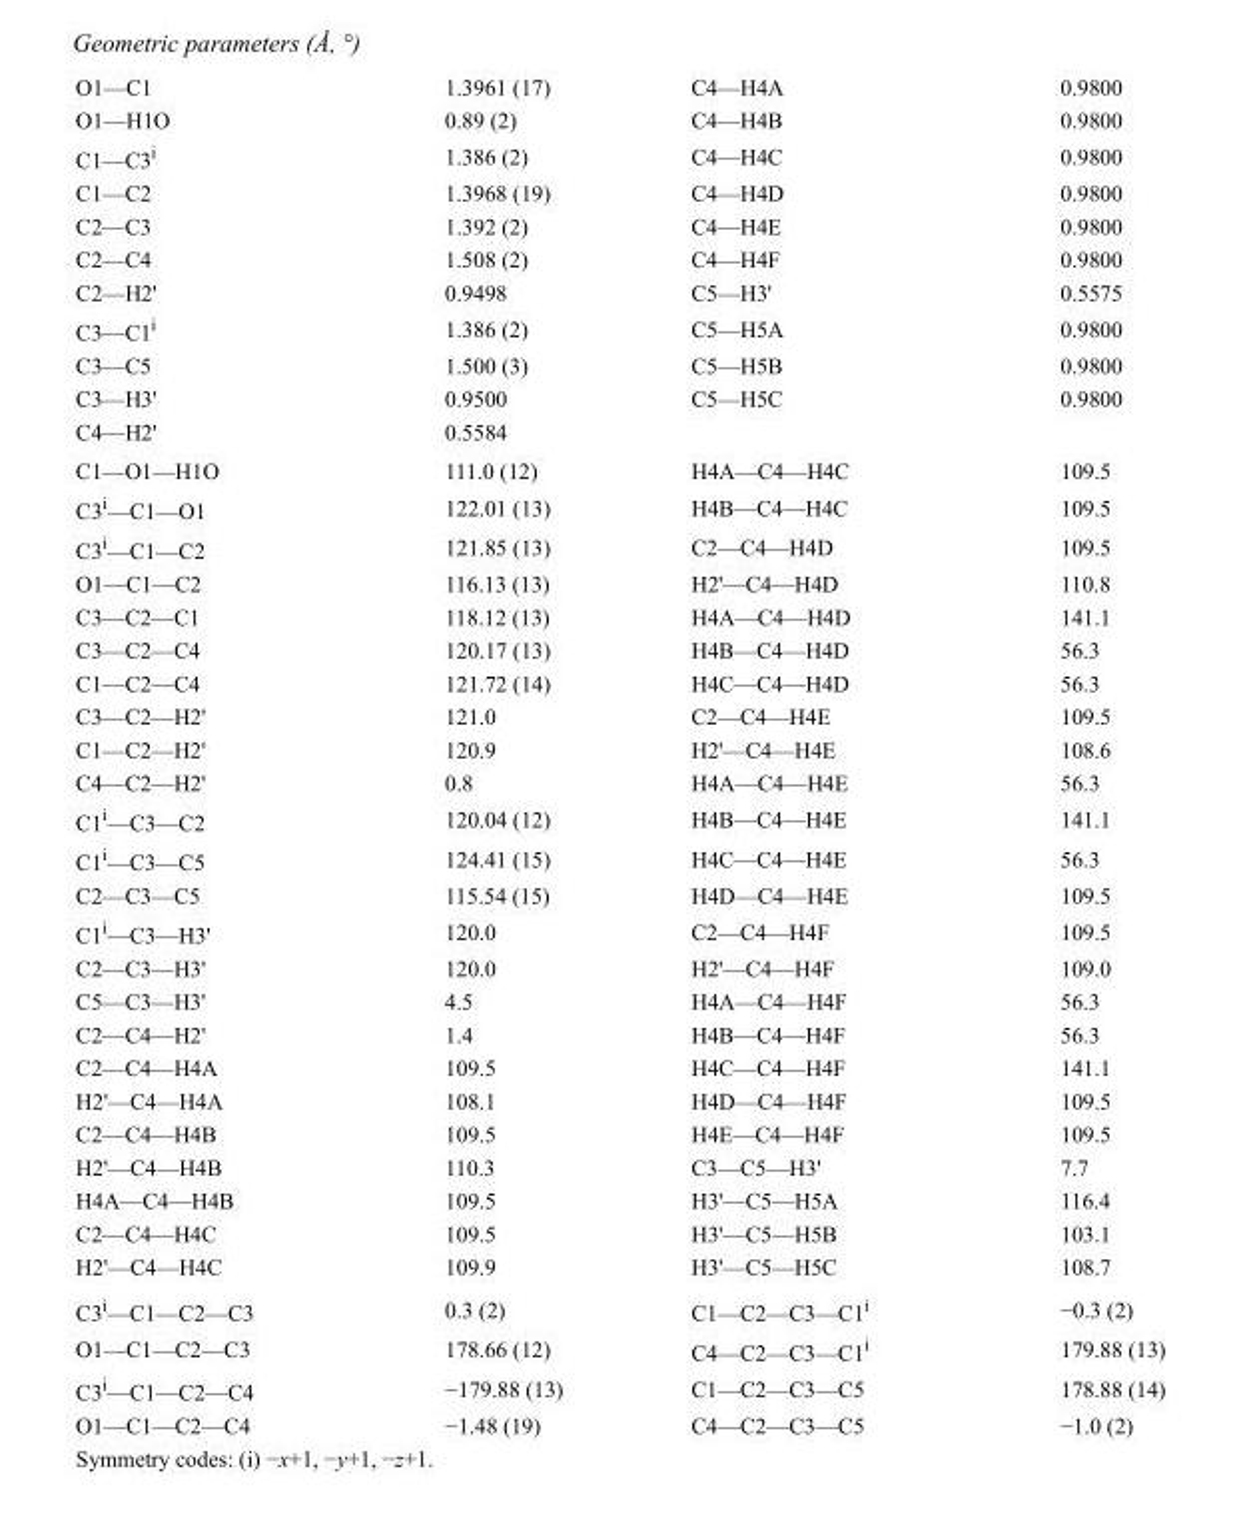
<table><tbody><tr><td>O1—C1</td><td>1.3961 (17)</td><td>C4—H4A</td><td>0.9800</td></tr><tr><td>O1—H1O</td><td>0.89 (2)</td><td>C4—H4B</td><td>0.9800</td></tr><tr><td>C1—C3<sup>i</sup></td><td>1.386 (2)</td><td>C4—H4C</td><td>0.9800</td></tr><tr><td>C1—C2</td><td>1.3968 (19)</td><td>C4—H4D</td><td>0.9800</td></tr><tr><td>C2—C3</td><td>1.392 (2)</td><td>C4—H4E</td><td>0.9800</td></tr><tr><td>C2—C4</td><td>1.508 (2)</td><td>C4—H4F</td><td>0.9800</td></tr><tr><td>C2—H2&#x27;</td><td>0.9498</td><td>C5—H3&#x27;</td><td>0.5575</td></tr><tr><td>C3—C1<sup>i</sup></td><td>1.386 (2)</td><td>C5—H5A</td><td>0.9800</td></tr><tr><td>C3—C5</td><td>1.500 (3)</td><td>C5—H5B</td><td>0.9800</td></tr><tr><td>C3—H3&#x27;</td><td>0.9500</td><td>C5—H5C</td><td>0.9800</td></tr><tr><td>C4—H2&#x27;</td><td>0.5584</td><td></td><td></td></tr><tr><td>C1—O1—H1O</td><td>111.0 (12)</td><td>H4A—C4—H4C</td><td>109.5</td></tr><tr><td>C3<sup>i</sup>—C1—O1</td><td>122.01 (13)</td><td>H4B—C4—H4C</td><td>109.5</td></tr><tr><td>C3<sup>i</sup>—C1—C2</td><td>121.85 (13)</td><td>C2—C4—H4D</td><td>109.5</td></tr><tr><td>O1—C1—C2</td><td>116.13 (13)</td><td>H2&#x27;—C4—H4D</td><td>110.8</td></tr><tr><td>C3—C2—C1</td><td>118.12 (13)</td><td>H4A—C4—H4D</td><td>141.1</td></tr><tr><td>C3—C2—C4</td><td>120.17 (13)</td><td>H4B—C4—H4D</td><td>56.3</td></tr><tr><td>C1—C2—C4</td><td>121.72 (14)</td><td>H4C—C4—H4D</td><td>56.3</td></tr><tr><td>C3—C2—H2&#x27;</td><td>121.0</td><td>C2—C4—H4E</td><td>109.5</td></tr><tr><td>C1—C2—H2&#x27;</td><td>120.9</td><td>H2&#x27;—C4—H4E</td><td>108.6</td></tr><tr><td>C4—C2—H2&#x27;</td><td>0.8</td><td>H4A—C4—H4E</td><td>56.3</td></tr><tr><td>C1<sup>i</sup>—C3—C2</td><td>120.04 (12)</td><td>H4B—C4—H4E</td><td>141.1</td></tr><tr><td>C1<sup>i</sup>—C3—C5</td><td>124.41 (15)</td><td>H4C—C4—H4E</td><td>56.3</td></tr><tr><td>C2—C3—C5</td><td>115.54 (15)</td><td>H4D—C4—H4E</td><td>109.5</td></tr><tr><td>C1<sup>i</sup>—C3—H3&#x27;</td><td>120.0</td><td>C2—C4—H4F</td><td>109.5</td></tr><tr><td>C2—C3—H3&#x27;</td><td>120.0</td><td>H2&#x27;—C4—H4F</td><td>109.0</td></tr><tr><td>C5—C3—H3&#x27;</td><td>4.5</td><td>H4A—C4—H4F</td><td>56.3</td></tr><tr><td>C2—C4—H2&#x27;</td><td>1.4</td><td>H4B—C4—H4F</td><td>56.3</td></tr><tr><td>C2—C4—H4A</td><td>109.5</td><td>H4C—C4—H4F</td><td>141.1</td></tr><tr><td>H2&#x27;—C4—H4A</td><td>108.1</td><td>H4D—C4—H4F</td><td>109.5</td></tr><tr><td>C2—C4—H4B</td><td>109.5</td><td>H4E—C4—H4F</td><td>109.5</td></tr><tr><td>H2&#x27;—C4—H4B</td><td>110.3</td><td>C3—C5—H3&#x27;</td><td>7.7</td></tr><tr><td>H4A—C4—H4B</td><td>109.5</td><td>H3&#x27;—C5—H5A</td><td>116.4</td></tr><tr><td>C2—C4—H4C</td><td>109.5</td><td>H3&#x27;—C5—H5B</td><td>103.1</td></tr><tr><td>H2&#x27;—C4—H4C</td><td>109.9</td><td>H3&#x27;—C5—H5C</td><td>108.7</td></tr><tr><td>C3<sup>i</sup>—C1—C2—C3</td><td>0.3 (2)</td><td>C1—C2—C3—C1<sup>i</sup></td><td>−0.3 (2)</td></tr><tr><td>O1—C1—C2—C3</td><td>178.66 (12)</td><td>C4—C2—C3—C1<sup>i</sup></td><td>179.88 (13)</td></tr><tr><td>C3<sup>i</sup>—C1—C2—C4</td><td>−179.88 (13)</td><td>C1—C2—C3—C5</td><td>178.88 (14)</td></tr><tr><td>O1—C1—C2—C4</td><td>−1.48 (19)</td><td>C4—C2—C3—C5</td><td>−1.0 (2)</td></tr></tbody></table>